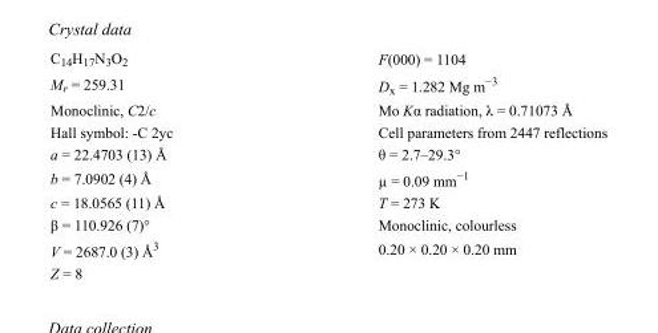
<table><tbody><tr><td>C<sub>14</sub>H<sub>17</sub>N<sub>3</sub>O<sub>2</sub></td><td>F(000) = 1104</td></tr><tr><td>M<sub>r</sub> = 259.31</td><td>D<sub>x</sub> = 1.282 Mg m<sup>−3</sup></td></tr><tr><td>Monoclinic, C2/c</td><td>Mo Kα radiation, λ = 0.71073 Å</td></tr><tr><td>Hall symbol: -C 2yc</td><td>Cell parameters from 2447 reflections</td></tr><tr><td>a = 22.4703 (13) Å</td><td>θ = 2.7–29.3°</td></tr><tr><td>b = 7.0902 (4) Å</td><td>µ = 0.09 mm<sup>−1</sup></td></tr><tr><td>c = 18.0565 (11) Å</td><td>T = 273 K</td></tr><tr><td>β = 110.926 (7)°</td><td>Monoclinic, colourless</td></tr><tr><td>V = 2687.0 (3) Å<sup>3</sup></td><td>0.20 × 0.20 × 0.20 mm</td></tr><tr><td>Z = 8</td><td></td></tr></tbody></table>